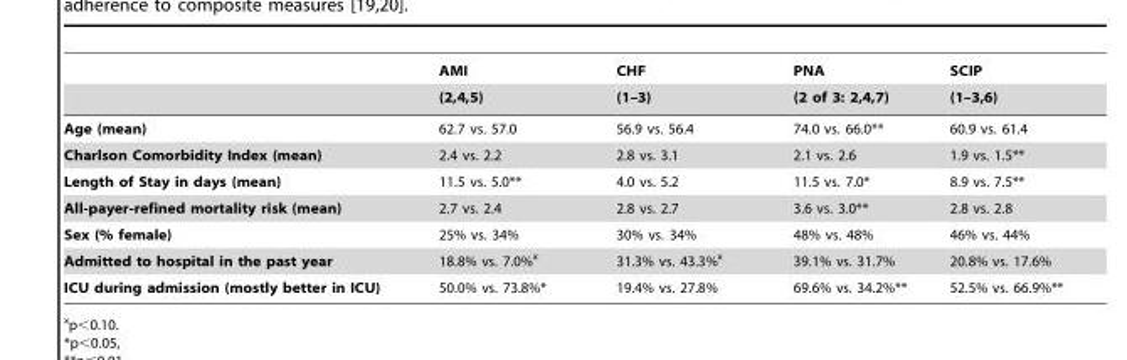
<table><thead><tr><td rowspan="2"></td><td rowspan="2">AMI (2,4,5)</td><td rowspan="2">CHF (1–3)</td><td rowspan="2">PNA (2 of 3: 2,4,7)</td><td rowspan="2">SCIP (1–3,6)</td></tr><tr></tr></thead><tbody><tr><td>Age (mean)</td><td>62.7 vs. 57.0</td><td>56.9 vs. 56.4</td><td>74.0 vs. 66.0**</td><td>60.9 vs. 61.4</td></tr><tr><td>Charlson Comorbidity Index (mean)</td><td>2.4 vs. 2.2</td><td>2.8 vs. 3.1</td><td>2.1 vs. 2.6</td><td>1.9 vs. 1.5**</td></tr><tr><td>Length of Stay in days (mean)</td><td>11.5 vs. 5.0**</td><td>4.0 vs. 5.2</td><td>11.5 vs. 7.0*</td><td>8.9 vs. 7.5**</td></tr><tr><td>All-payer-refined mortality risk (mean)</td><td>2.7 vs. 2.4</td><td>2.8 vs. 2.7</td><td>3.6 vs. 3.0**</td><td>2.8 vs. 2.8</td></tr><tr><td>Sex (% female)</td><td>25% vs. 34%</td><td>30% vs. 34%</td><td>48% vs. 48%</td><td>46% vs. 44%</td></tr><tr><td>Admitted to hospital in the past year</td><td>18.8% vs. 7.0%<sup>x</sup></td><td>31.3% vs. 43.3%<sup>x</sup></td><td>39.1% vs. 31.7%</td><td>20.8% vs. 17.6%</td></tr><tr><td>ICU during admission (mostly better in ICU)</td><td>50.0% vs. 73.8%*</td><td>19.4% vs. 27.8%</td><td>69.6% vs. 34.2%**</td><td>52.5% vs. 66.9%**</td></tr></tbody></table>